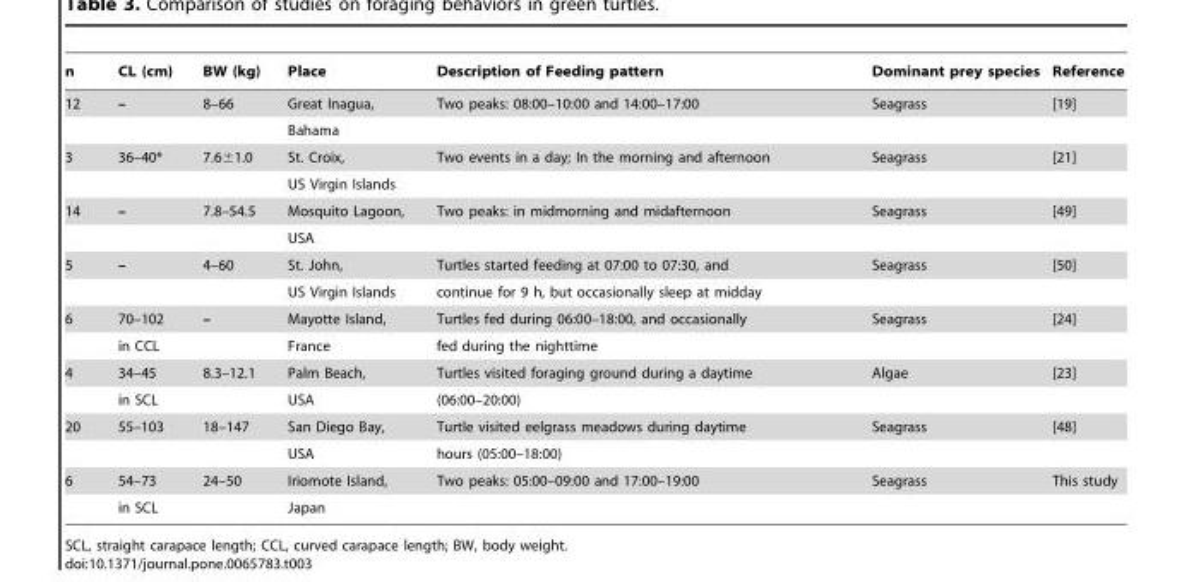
<table><thead><tr><td>n</td><td>CL (cm)</td><td>BW (kg)</td><td>Place</td><td>Description of Feeding pattern</td><td>Dominant prey species</td><td>Reference</td></tr></thead><tbody><tr><td rowspan="2">12</td><td>–</td><td>8–66</td><td>Great Inagua,</td><td>Two peaks: 08:00–10:00 and 14:00–17:00</td><td>Seagrass</td><td>[19]</td></tr><tr><td></td><td></td><td>Bahama</td><td></td><td></td><td></td></tr><tr><td rowspan="2">3</td><td>36–40*</td><td>7.6±1.0</td><td>St. Croix,</td><td>Two events in a day; In the morning and afternoon</td><td>Seagrass</td><td>[21]</td></tr><tr><td></td><td></td><td>US Virgin Islands</td><td></td><td></td><td></td></tr><tr><td rowspan="2">14</td><td>–</td><td>7.8–54.5</td><td>Mosquito Lagoon,</td><td>Two peaks: in midmorning and midafternoon</td><td>Seagrass</td><td>[49]</td></tr><tr><td></td><td></td><td>USA</td><td></td><td></td><td></td></tr><tr><td rowspan="2">5</td><td>–</td><td>4–60</td><td>St. John,</td><td>Turtles started feeding at 07:00 to 07:30, and</td><td>Seagrass</td><td>[50]</td></tr><tr><td></td><td></td><td>US Virgin Islands</td><td>continue for 9 h, but occasionally sleep at midday</td><td></td><td></td></tr><tr><td rowspan="2">6</td><td>70–102</td><td>–</td><td>Mayotte Island,</td><td>Turtles fed during 06:00–18:00, and occasionally</td><td>Seagrass</td><td>[24]</td></tr><tr><td>in CCL</td><td></td><td>France</td><td>fed during the nighttime</td><td></td><td></td></tr><tr><td rowspan="2">4</td><td>34–45</td><td>8.3–12.1</td><td>Palm Beach,</td><td>Turtles visited foraging ground during a daytime</td><td>Algae</td><td>[23]</td></tr><tr><td>in SCL</td><td></td><td>USA</td><td>(06:00–20:00)</td><td></td><td></td></tr><tr><td rowspan="2">20</td><td>55–103</td><td>18–147</td><td>San Diego Bay,</td><td>Turtle visited eelgrass meadows during daytime</td><td>Seagrass</td><td>[48]</td></tr><tr><td></td><td></td><td>USA</td><td>hours (05:00–18:00)</td><td></td><td></td></tr><tr><td rowspan="2">6</td><td>54–73</td><td>24–50</td><td>Iriomote Island,</td><td>Two peaks: 05:00–09:00 and 17:00–19:00</td><td>Seagrass</td><td>This study</td></tr><tr><td>in SCL</td><td></td><td>Japan</td><td></td><td></td><td></td></tr></tbody></table>